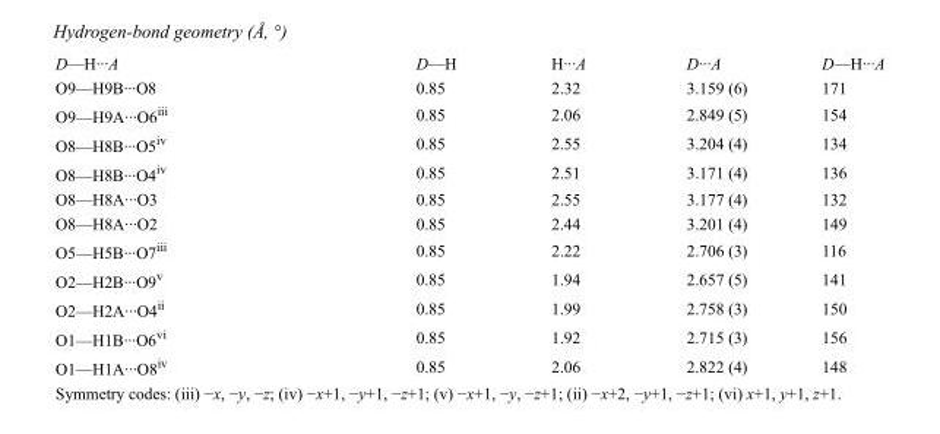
<table><tbody><tr><td>D—H···A</td><td>D—H</td><td>H···A</td><td>D···A</td><td>D—H···A</td></tr><tr><td>O9—H9B···O8</td><td>0.85</td><td>2.32</td><td>3.159 (6)</td><td>171</td></tr><tr><td>O9—H9A···O6<sup>iii</sup></td><td>0.85</td><td>2.06</td><td>2.849 (5)</td><td>154</td></tr><tr><td>O8—H8B···O5<sup>iv</sup></td><td>0.85</td><td>2.55</td><td>3.204 (4)</td><td>134</td></tr><tr><td>O8—H8B···O4<sup>iv</sup></td><td>0.85</td><td>2.51</td><td>3.171 (4)</td><td>136</td></tr><tr><td>O8—H8A···O3</td><td>0.85</td><td>2.55</td><td>3.177 (4)</td><td>132</td></tr><tr><td>O8—H8A···O2</td><td>0.85</td><td>2.44</td><td>3.201 (4)</td><td>149</td></tr><tr><td>O5—H5B···O7<sup>iii</sup></td><td>0.85</td><td>2.22</td><td>2.706 (3)</td><td>116</td></tr><tr><td>O2—H2B···O9<sup>v</sup></td><td>0.85</td><td>1.94</td><td>2.657 (5)</td><td>141</td></tr><tr><td>O2—H2A···O4<sup>ii</sup></td><td>0.85</td><td>1.99</td><td>2.758 (3)</td><td>150</td></tr><tr><td>O1—H1B···O6<sup>vi</sup></td><td>0.85</td><td>1.92</td><td>2.715 (3)</td><td>156</td></tr><tr><td>O1—H1A···O8<sup>iv</sup></td><td>0.85</td><td>2.06</td><td>2.822 (4)</td><td>148</td></tr></tbody></table>